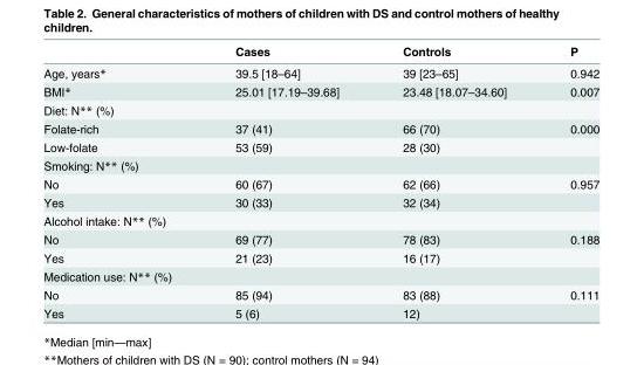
<table><thead><tr><td></td><td>Cases</td><td>Controls</td><td>P</td></tr></thead><tbody><tr><td>Age, years*</td><td>39.5 [18–64]</td><td>39 [23–65]</td><td>0.942</td></tr><tr><td>BMI*</td><td>25.01 [17.19–39.68]</td><td>23.48 [18.07–34.60]</td><td>0.007</td></tr><tr><td colspan="4">Diet: N** (%)</td></tr><tr><td>Folate-rich</td><td>37 (41)</td><td>66 (70)</td><td>0.000</td></tr><tr><td>Low-folate</td><td>53 (59)</td><td>28 (30)</td><td></td></tr><tr><td colspan="4">Smoking: N** (%)</td></tr><tr><td>No</td><td>60 (67)</td><td>62 (66)</td><td>0.957</td></tr><tr><td>Yes</td><td>30 (33)</td><td>32 (34)</td><td></td></tr><tr><td colspan="4">Alcohol intake: N** (%)</td></tr><tr><td>No</td><td>69 (77)</td><td>78 (83)</td><td>0.188</td></tr><tr><td>Yes</td><td>21 (23)</td><td>16 (17)</td><td></td></tr><tr><td colspan="4">Medication use: N** (%)</td></tr><tr><td>No</td><td>85 (94)</td><td>83 (88)</td><td>0.111</td></tr><tr><td>Yes</td><td>5 (6)</td><td>12)</td><td></td></tr></tbody></table>